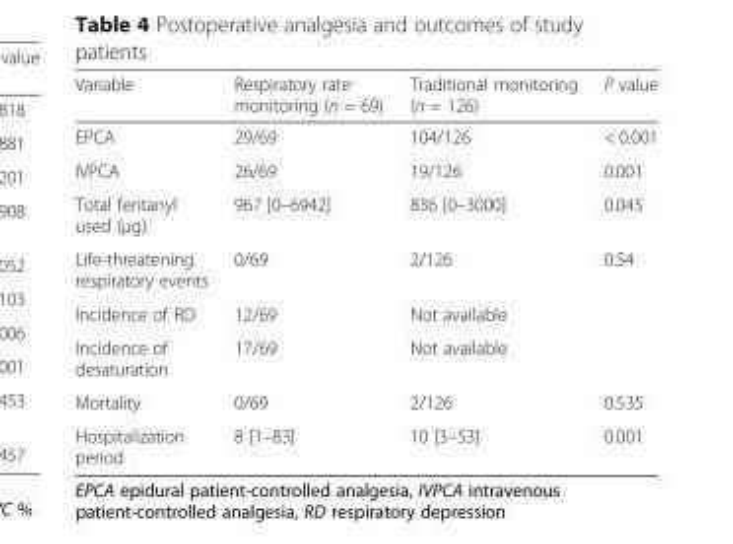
<table><thead><tr><td>Variable</td><td>Respiratory rate monitoring (n = 69)</td><td>Traditional monitoring (n = 126)</td><td>P value</td></tr></thead><tbody><tr><td>EPCA</td><td>29/69</td><td>104/126</td><td>&lt; 0.001</td></tr><tr><td>IVPCA</td><td>26/69</td><td>19/126</td><td>0.001</td></tr><tr><td>Total fentanyl used (μg)</td><td>967 [0–6942]</td><td>836 [0–3000]</td><td>0.045</td></tr><tr><td>Life-threatening respiratory events</td><td>0/69</td><td>2/126</td><td>0.54</td></tr><tr><td>Incidence of RD</td><td>12/69</td><td>Not available</td><td></td></tr><tr><td>Incidence of desaturation</td><td>17/69</td><td>Not available</td><td></td></tr><tr><td>Mortality</td><td>0/69</td><td>2/126</td><td>0.535</td></tr><tr><td>Hospitalization period</td><td>8 [1–83]</td><td>10 [3–53]</td><td>0.001</td></tr></tbody></table>